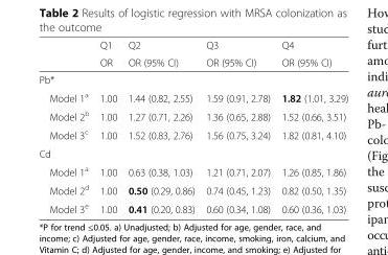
<table><thead><tr><td rowspan="2"></td><td rowspan="2">Q1 OR</td><td rowspan="2">Q2 OR (95% CI)</td><td rowspan="2">Q3 OR (95% CI)</td><td rowspan="2">Q4 OR (95% CI)</td></tr><tr></tr></thead><tbody><tr><td colspan="5">Pb*</td></tr><tr><td>Model 1<sup>a</sup></td><td>1.00</td><td>1.44 (0.82, 2.55)</td><td>1.59 (0.91, 2.78)</td><td>1.82 (1.01, 3.29)</td></tr><tr><td>Model 2<sup>b</sup></td><td>1.00</td><td>1.27 (0.71, 2.26)</td><td>1.36 (0.65, 2.88)</td><td>1.52 (0.66, 3.51)</td></tr><tr><td>Model 3<sup>c</sup></td><td>1.00</td><td>1.52 (0.83, 2.76)</td><td>1.56 (0.75, 3.24)</td><td>1.82 (0.81, 4.10)</td></tr><tr><td colspan="5">Cd</td></tr><tr><td>Model 1<sup>a</sup></td><td>1.00</td><td>0.63 (0.38, 1.03)</td><td>1.21 (0.71, 2.07)</td><td>1.26 (0.85, 1.86)</td></tr><tr><td>Model 2<sup>d</sup></td><td>1.00</td><td>0.50 (0.29, 0.86)</td><td>0.74 (0.45, 1.23)</td><td>0.82 (0.50, 1.35)</td></tr><tr><td>Model 3<sup>e</sup></td><td>1.00</td><td>0.41 (0.20, 0.83)</td><td>0.60 (0.34, 1.08)</td><td>0.60 (0.36, 1.03)</td></tr></tbody></table>